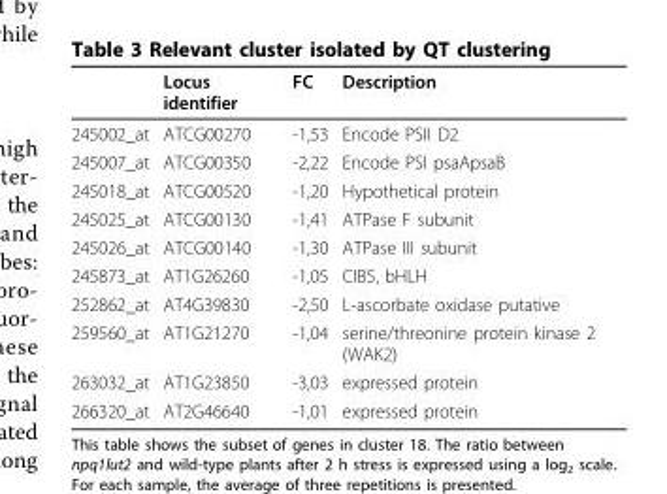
<table><thead><tr><td></td><td>Locus identifier</td><td>FC</td><td>Description</td></tr></thead><tbody><tr><td>245002_at</td><td>ATCG00270</td><td>-1,53</td><td>Encode PSII D2</td></tr><tr><td>245007_at</td><td>ATCG00350</td><td>-2,22</td><td>Encode PSI psaApsaB</td></tr><tr><td>245018_at</td><td>ATCG00520</td><td>-1,20</td><td>Hypothetical protein</td></tr><tr><td>245025_at</td><td>ATCG00130</td><td>-1,41</td><td>ATPase F subunit</td></tr><tr><td>245026_at</td><td>ATCG00140</td><td>-1,30</td><td>ATPase III subunit</td></tr><tr><td>245873_at</td><td>AT1G26260</td><td>-1,05</td><td>CIB5, bHLH</td></tr><tr><td>252862_at</td><td>AT4G39830</td><td>-2,50</td><td>L-ascorbate oxidase putative</td></tr><tr><td>259560_at</td><td>AT1G21270</td><td>-1,04</td><td>serine/threonine protein kinase 2 (WAK2)</td></tr><tr><td>263032_at</td><td>AT1G23850</td><td>-3,03</td><td>expressed protein</td></tr><tr><td>266320_at</td><td>AT2G46640</td><td>-1,01</td><td>expressed protein</td></tr></tbody></table>